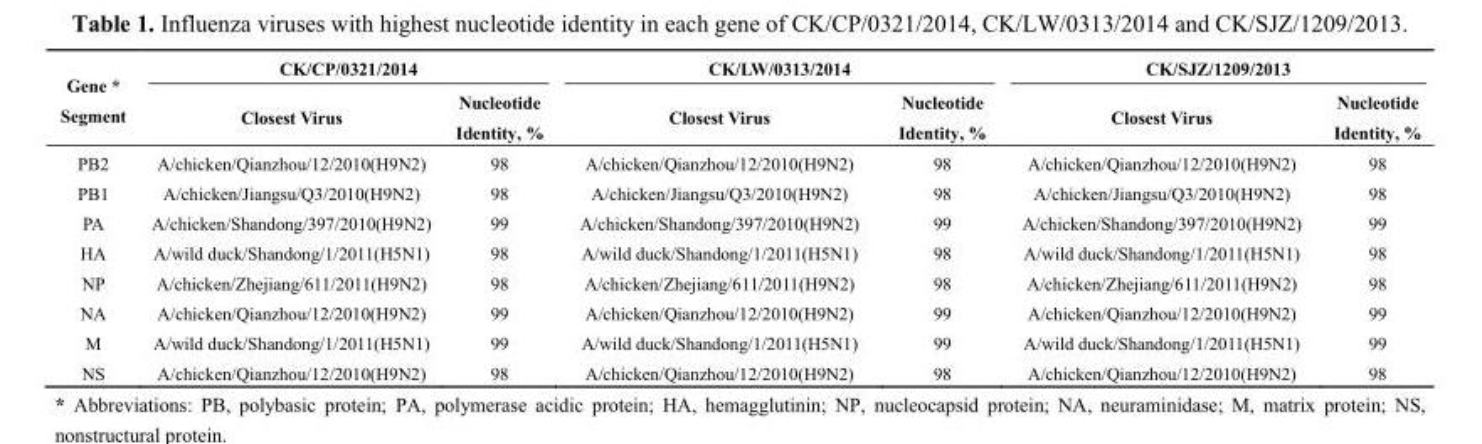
<table><thead><tr><td rowspan="2">Gene * Segment</td><td colspan="2">CK/CP/0321/2014</td><td colspan="2">CK/LW/0313/2014</td><td colspan="2">CK/SJZ/1209/2013</td></tr><tr><td>Closest Virus</td><td>Nucleotide Identity, %</td><td>Closest Virus</td><td>Nucleotide Identity, %</td><td>Closest Virus</td><td>Nucleotide Identity, %</td></tr></thead><tbody><tr><td>PB2</td><td>A/chicken/Qianzhou/12/2010(H9N2)</td><td>98</td><td>A/chicken/Qianzhou/12/2010(H9N2)</td><td>98</td><td>A/chicken/Qianzhou/12/2010(H9N2)</td><td>98</td></tr><tr><td>PB1</td><td>A/chicken/Jiangsu/Q3/2010(H9N2)</td><td>98</td><td>A/chicken/Jiangsu/Q3/2010(H9N2)</td><td>98</td><td>A/chicken/Jiangsu/Q3/2010(H9N2)</td><td>98</td></tr><tr><td>PA</td><td>A/chicken/Shandong/397/2010(H9N2)</td><td>99</td><td>A/chicken/Shandong/397/2010(H9N2)</td><td>99</td><td>A/chicken/Shandong/397/2010(H9N2)</td><td>99</td></tr><tr><td>HA</td><td>A/wild duck/Shandong/1/2011(H5N1)</td><td>98</td><td>A/wild duck/Shandong/1/2011(H5N1)</td><td>98</td><td>A/wild duck/Shandong/1/2011(H5N1)</td><td>98</td></tr><tr><td>NP</td><td>A/chicken/Zhejiang/611/2011(H9N2)</td><td>98</td><td>A/chicken/Zhejiang/611/2011(H9N2)</td><td>98</td><td>A/chicken/Zhejiang/611/2011(H9N2)</td><td>98</td></tr><tr><td>NA</td><td>A/chicken/Qianzhou/12/2010(H9N2)</td><td>99</td><td>A/chicken/Qianzhou/12/2010(H9N2)</td><td>99</td><td>A/chicken/Qianzhou/12/2010(H9N2)</td><td>99</td></tr><tr><td>M</td><td>A/wild duck/Shandong/1/2011(H5N1)</td><td>99</td><td>A/wild duck/Shandong/1/2011(H5N1)</td><td>99</td><td>A/wild duck/Shandong/1/2011(H5N1)</td><td>99</td></tr><tr><td>NS</td><td>A/chicken/Qianzhou/12/2010(H9N2)</td><td>98</td><td>A/chicken/Qianzhou/12/2010(H9N2)</td><td>98</td><td>A/chicken/Qianzhou/12/2010(H9N2)</td><td>98</td></tr></tbody></table>